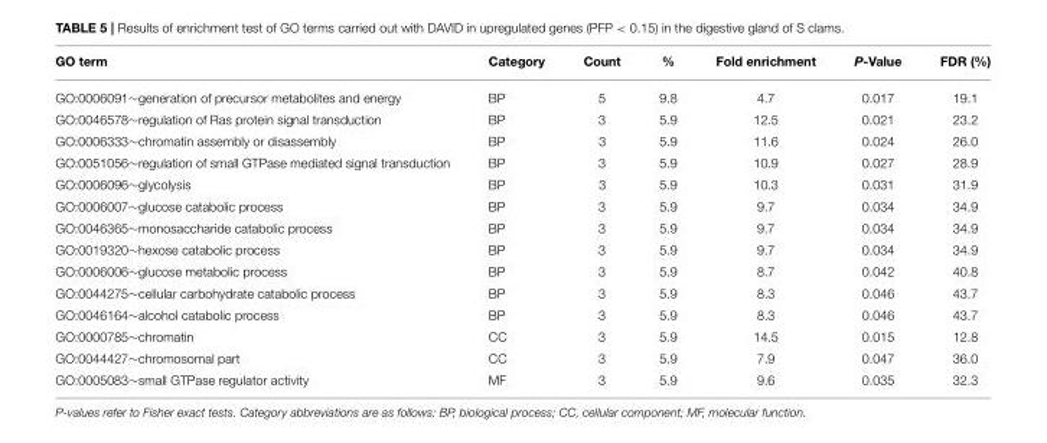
<table><thead><tr><td>GO term</td><td>Category</td><td>Count</td><td>%</td><td>Fold enrichment</td><td>P-Value</td><td>FDR (%)</td></tr></thead><tbody><tr><td>GO:0006091∼generation of precursor metabolites and energy</td><td>BP</td><td>5</td><td>9.8</td><td>4.7</td><td>0.017</td><td>19.1</td></tr><tr><td>GO:0046578∼regulation of Ras protein signal transduction</td><td>BP</td><td>3</td><td>5.9</td><td>12.5</td><td>0.021</td><td>23.2</td></tr><tr><td>GO:0006333∼chromatin assembly or disassembly</td><td>BP</td><td>3</td><td>5.9</td><td>11.6</td><td>0.024</td><td>26.0</td></tr><tr><td>GO:0051056∼regulation of small GTPase mediated signal transduction</td><td>BP</td><td>3</td><td>5.9</td><td>10.9</td><td>0.027</td><td>28.9</td></tr><tr><td>GO:0006096∼glycolysis</td><td>BP</td><td>3</td><td>5.9</td><td>10.3</td><td>0.031</td><td>31.9</td></tr><tr><td>GO:0006007∼glucose catabolic process</td><td>BP</td><td>3</td><td>5.9</td><td>9.7</td><td>0.034</td><td>34.9</td></tr><tr><td>GO:0046365∼monosaccharide catabolic process</td><td>BP</td><td>3</td><td>5.9</td><td>9.7</td><td>0.034</td><td>34.9</td></tr><tr><td>GO:0019320∼hexose catabolic process</td><td>BP</td><td>3</td><td>5.9</td><td>9.7</td><td>0.034</td><td>34.9</td></tr><tr><td>GO:0006006∼glucose metabolic process</td><td>BP</td><td>3</td><td>5.9</td><td>8.7</td><td>0.042</td><td>40.8</td></tr><tr><td>GO:0044275∼cellular carbohydrate catabolic process</td><td>BP</td><td>3</td><td>5.9</td><td>8.3</td><td>0.046</td><td>43.7</td></tr><tr><td>GO:0046164∼alcohol catabolic process</td><td>BP</td><td>3</td><td>5.9</td><td>8.3</td><td>0.046</td><td>43.7</td></tr><tr><td>GO:0000785∼chromatin</td><td>CC</td><td>3</td><td>5.9</td><td>14.5</td><td>0.015</td><td>12.8</td></tr><tr><td>GO:0044427∼chromosomal part</td><td>CC</td><td>3</td><td>5.9</td><td>7.9</td><td>0.047</td><td>36.0</td></tr><tr><td>GO:0005083∼small GTPase regulator activity</td><td>MF</td><td>3</td><td>5.9</td><td>9.6</td><td>0.035</td><td>32.3</td></tr></tbody></table>